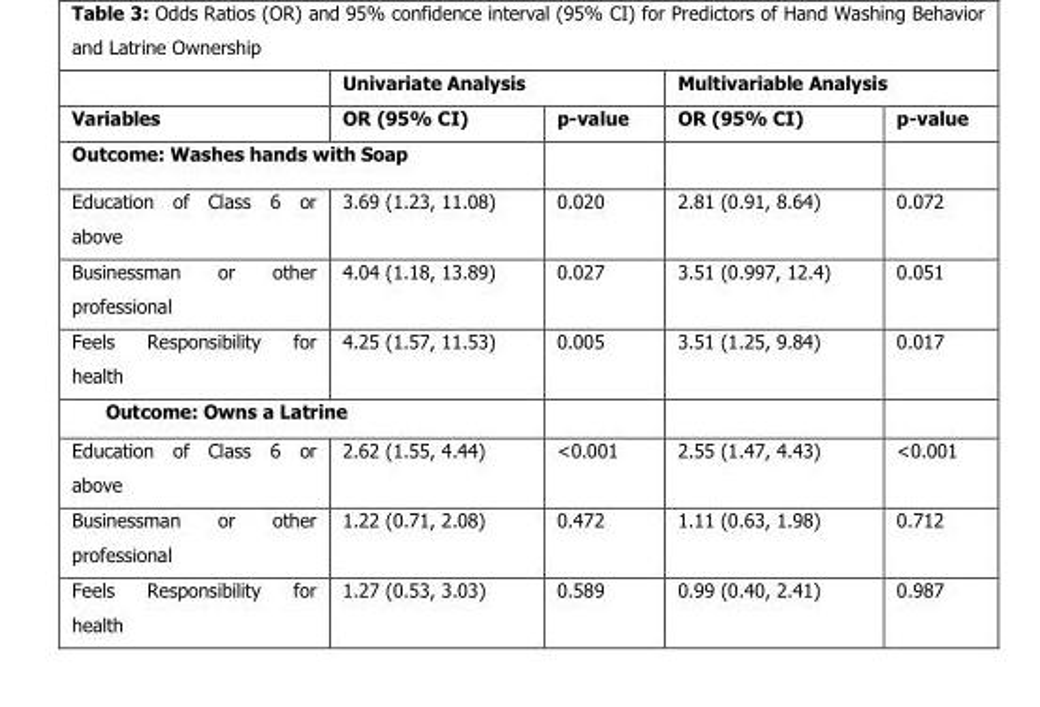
<table><thead><tr><td rowspan="2">Variables</td><td colspan="2">Univariate Analysis</td><td colspan="2">Multivariable Analysis</td></tr><tr><td>OR (95% CI)</td><td>p-value</td><td>OR (95% CI)</td><td>p-value</td></tr></thead><tbody><tr><td colspan="5">Outcome: Washes hands with Soap</td></tr><tr><td>Education of Class 6 or above</td><td>3.69 (1.23, 11.08)</td><td>0.020</td><td>2.81 (0.91, 8.64)</td><td>0.072</td></tr><tr><td>Businessman or other professional</td><td>4.04 (1.18, 13.89)</td><td>0.027</td><td>3.51 (0.997, 12.4)</td><td>0.051</td></tr><tr><td>Feels Responsibility for health</td><td>4.25 (1.57, 11.53)</td><td>0.005</td><td>3.51 (1.25, 9.84)</td><td>0.017</td></tr><tr><td colspan="5">Outcome: Owns a Latrine</td></tr><tr><td>Education of Class 6 or above</td><td>2.62 (1.55, 4.44)</td><td>&lt;0.001</td><td>2.55 (1.47, 4.43)</td><td>&lt;0.001</td></tr><tr><td>Businessman or other professional</td><td>1.22 (0.71, 2.08)</td><td>0.472</td><td>1.11 (0.63, 1.98)</td><td>0.712</td></tr><tr><td>Feels Responsibility for health</td><td>1.27 (0.53, 3.03)</td><td>0.589</td><td>0.99 (0.40, 2.41)</td><td>0.987</td></tr></tbody></table>